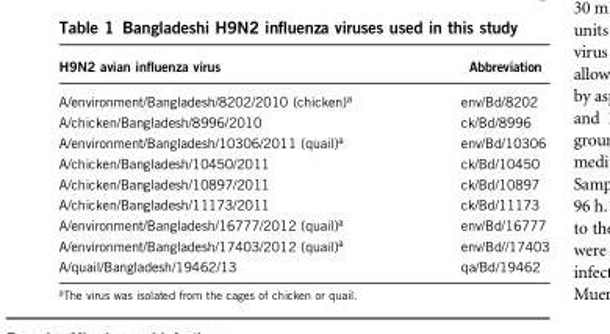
<table><thead><tr><td>H9N2 avian influenza virus</td><td>Abbreviation</td></tr></thead><tbody><tr><td>A/environment/Bangladesh/8202/2010 (chicken)<sup>a</sup></td><td>env/Bd/8202</td></tr><tr><td>A/chicken/Bangladesh/8996/2010</td><td>ck/Bd/8996</td></tr><tr><td>A/environment/Bangladesh/10306/2011 (quail)<sup>a</sup></td><td>env/Bd/10306</td></tr><tr><td>A/chicken/Bangladesh/10450/2011</td><td>ck/Bd/10450</td></tr><tr><td>A/chicken/Bangladesh/10897/2011</td><td>ck/Bd/10897</td></tr><tr><td>A/chicken/Bangladesh/11173/2011</td><td>ck/Bd/11173</td></tr><tr><td>A/environment/Bangladesh/16777/2012 (quail)<sup>a</sup></td><td>env/Bd/16777</td></tr><tr><td>A/environment/Bangladesh/17403/2012 (quail)<sup>a</sup></td><td>env/Bd//17403</td></tr><tr><td>A/quail/Bangladesh/19462/13</td><td>qa/Bd/19462</td></tr></tbody></table>